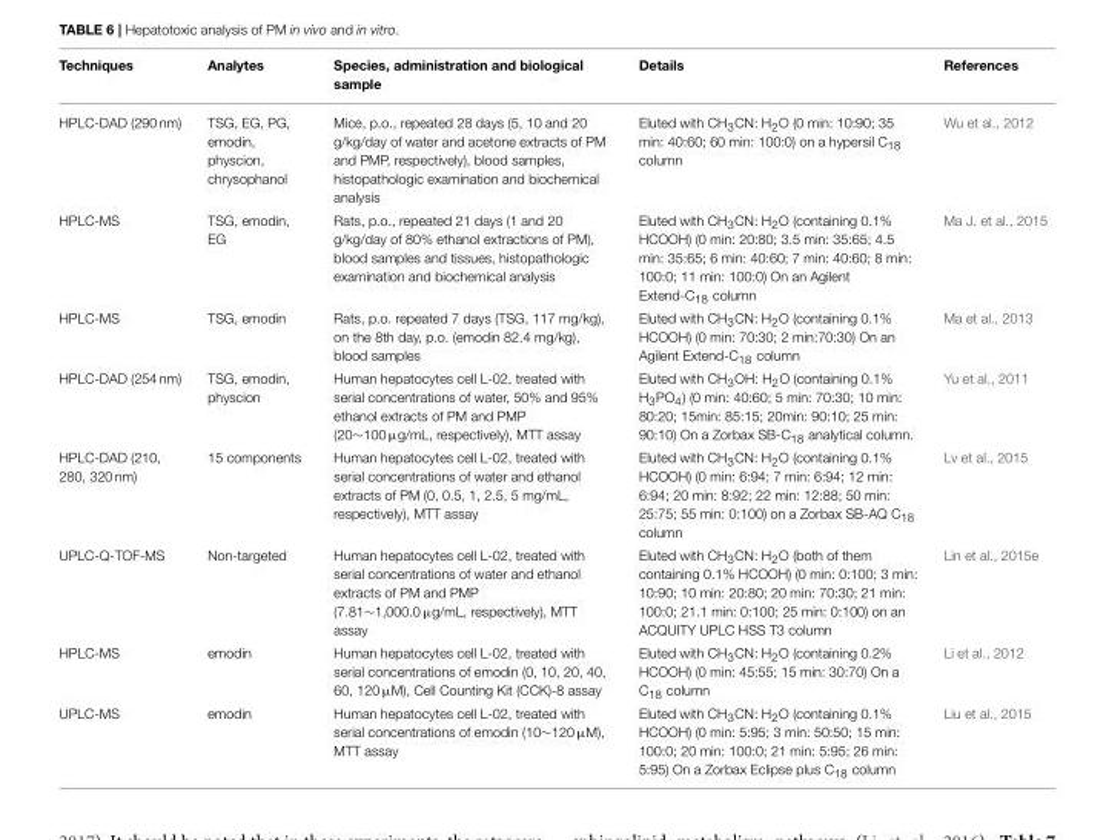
<table><thead><tr><td>Techniques</td><td>Analytes</td><td>Species, administration and biological sample</td><td>Details</td><td>References</td></tr></thead><tbody><tr><td>HPLC-DAD (290 nm)</td><td>TSG, EG, PG, emodin, physcion, chrysophanol</td><td>Mice, p.o., repeated 28 days (5, 10 and 20 g/kg/day of water and acetone extracts of PM and PMP, respectively), blood samples, histopathologic examination and biochemical analysis</td><td>Eluted with CH<sub>3</sub>CN: H<sub>2</sub>O (0 min: 10:90; 35 min: 40:60; 60 min: 100:0) on a hypersil C<sub>18</sub> column</td><td>Wu et al., 2012</td></tr><tr><td>HPLC-MS</td><td>TSG, emodin, EG</td><td>Rats, p.o., repeated 21 days (1 and 20 g/kg/day of 80% ethanol extractions of PM), blood samples and tissues, histopathologic examination and biochemical analysis</td><td>Eluted with CH<sub>3</sub>CN: H<sub>2</sub>O (containing 0.1% HCOOH) (0 min: 20:80; 3.5 min: 35:65; 4.5 min: 35:65; 6 min: 40:60; 7 min: 40:60; 8 min: 100:0; 11 min: 100:0) On an Agilent Extend-C<sub>18</sub> column</td><td>Ma J. et al., 2015</td></tr><tr><td>HPLC-MS</td><td>TSG, emodin</td><td>Rats, p.o. repeated 7 days (TSG, 117 mg/kg), on the 8th day, p.o. (emodin 82.4 mg/kg), blood samples</td><td>Eluted with CH<sub>3</sub>CN: H<sub>2</sub>O (containing 0.1% HCOOH) (0 min: 70:30; 2 min:70:30) On an Agilent Extend-C<sub>18</sub> column</td><td>Ma et al., 2013</td></tr><tr><td>HPLC-DAD (254 nm)</td><td>TSG, emodin, physcion</td><td>Human hepatocytes cell L-02, treated with serial concentrations of water, 50% and 95% ethanol extracts of PM and PMP (20∼100 µg/mL, respectively), MTT assay</td><td>Eluted with CH<sub>3</sub>OH: H<sub>2</sub>O (containing 0.1% H<sub>3</sub>PO<sub>4</sub>) (0 min: 40:60; 5 min: 70:30; 10 min: 80:20; 15min: 85:15; 20min: 90:10; 25 min: 90:10) On a Zorbax SB-C<sub>18</sub> analytical column.</td><td>Yu et al., 2011</td></tr><tr><td>HPLC-DAD (210, 280, 320 nm)</td><td>15 components</td><td>Human hepatocytes cell L-02, treated with serial concentrations of water and ethanol extracts of PM (0, 0.5, 1, 2.5, 5 mg/mL, respectively), MTT assay</td><td>Eluted with CH<sub>3</sub>CN: H<sub>2</sub>O (containing 0.1% HCOOH) (0 min: 6:94; 7 min: 6:94; 12 min: 6:94; 20 min: 8:92; 22 min: 12:88; 50 min: 25:75; 55 min: 0:100) on a Zorbax SB-AQ C<sub>18</sub> column</td><td>Lv et al., 2015</td></tr><tr><td>UPLC-Q-TOF-MS</td><td>Non-targeted</td><td>Human hepatocytes cell L-02, treated with serial concentrations of water and ethanol extracts of PM and PMP (7.81∼1,000.0 µg/mL, respectively), MTT assay</td><td>Eluted with CH<sub>3</sub>CN: H<sub>2</sub>O (both of them containing 0.1% HCOOH) (0 min: 0:100; 3 min: 10:90; 10 min: 20:80; 20 min: 70:30; 21 min: 100:0; 21.1 min: 0:100; 25 min: 0:100) on an ACQUITY UPLC HSS T3 column</td><td>Lin et al., 2015e</td></tr><tr><td>HPLC-MS</td><td>emodin</td><td>Human hepatocytes cell L-02, treated with serial concentrations of emodin (0, 10, 20, 40, 60, 120 µM), Cell Counting Kit (CCK)-8 assay</td><td>Eluted with CH<sub>3</sub>CN: H<sub>2</sub>O (containing 0.2% HCOOH) (0 min: 45:55; 15 min: 30:70) On a C<sub>18</sub> column</td><td>Li et al., 2012</td></tr><tr><td>UPLC-MS</td><td>emodin</td><td>Human hepatocytes cell L-02, treated with serial concentrations of emodin (10∼120 µM), MTT assay</td><td>Eluted with CH<sub>3</sub>CN: H<sub>2</sub>O (containing 0.1% HCOOH) (0 min: 5:95; 3 min: 50:50; 15 min: 100:0; 20 min: 100:0; 21 min: 5:95; 26 min: 5:95) On a Zorbax Eclipse plus C<sub>18</sub> column</td><td>Liu et al., 2015</td></tr></tbody></table>